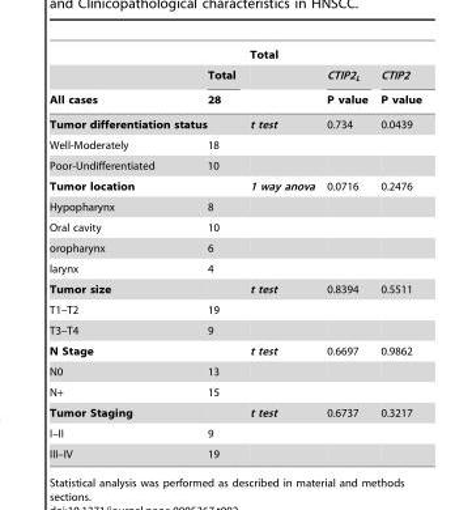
<table><thead><tr><td rowspan="3">All cases</td><td rowspan="3">Total 28</td><td rowspan="3">Total</td><td rowspan="3">CTIP2<sub>L</sub> P value</td><td rowspan="3">CTIP2 P value</td></tr><tr></tr><tr></tr></thead><tbody><tr><td>Tumor differentiation status</td><td></td><td>t test</td><td>0.734</td><td>0.0439</td></tr><tr><td>Well-Moderately</td><td>18</td><td></td><td></td><td></td></tr><tr><td>Poor-Undifferentiated</td><td>10</td><td></td><td></td><td></td></tr><tr><td>Tumor location</td><td></td><td>1 way anova</td><td>0.0716</td><td>0.2476</td></tr><tr><td>Hypopharynx</td><td>8</td><td></td><td></td><td></td></tr><tr><td>Oral cavity</td><td>10</td><td></td><td></td><td></td></tr><tr><td>oropharynx</td><td>6</td><td></td><td></td><td></td></tr><tr><td>larynx</td><td>4</td><td></td><td></td><td></td></tr><tr><td>Tumor size</td><td></td><td>t test</td><td>0.8394</td><td>0.5511</td></tr><tr><td>T1–T2</td><td>19</td><td></td><td></td><td></td></tr><tr><td>T3–T4</td><td>9</td><td></td><td></td><td></td></tr><tr><td>N Stage</td><td></td><td>t test</td><td>0.6697</td><td>0.9862</td></tr><tr><td>N0</td><td>13</td><td></td><td></td><td></td></tr><tr><td>N+</td><td>15</td><td></td><td></td><td></td></tr><tr><td>Tumor Staging</td><td></td><td>t test</td><td>0.6737</td><td>0.3217</td></tr><tr><td>I–II</td><td>9</td><td></td><td></td><td></td></tr><tr><td>III–IV</td><td>19</td><td></td><td></td><td></td></tr></tbody></table>